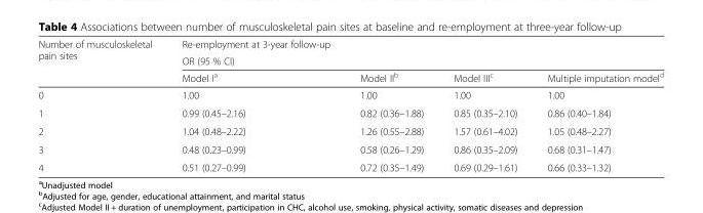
<table><thead><tr><td rowspan="3">Number of musculoskeletal pain sites</td><td>Re-employment at 3-year follow-up</td><td></td><td></td><td></td></tr><tr><td colspan="4">OR (95 % CI)</td></tr><tr><td>Model I<sup>a</sup></td><td>Model II<sup>b</sup></td><td>Model III<sup>c</sup></td><td>Multiple imputation model<sup>d</sup></td></tr></thead><tbody><tr><td>0</td><td>1.00</td><td>1.00</td><td>1.00</td><td>1.00</td></tr><tr><td>1</td><td>0.99 (0.45–2.16)</td><td>0.82 (0.36–1.88)</td><td>0.85 (0.35–2.10)</td><td>0.86 (0.40–1.84)</td></tr><tr><td>2</td><td>1.04 (0.48–2.22)</td><td>1.26 (0.55–2.88)</td><td>1.57 (0.61–4.02)</td><td>1.05 (0.48–2.27)</td></tr><tr><td>3</td><td>0.48 (0.23–0.99)</td><td>0.58 (0.26–1.29)</td><td>0.86 (0.35–2.09)</td><td>0.68 (0.31–1.47)</td></tr><tr><td>4</td><td>0.51 (0.27–0.99)</td><td>0.72 (0.35–1.49)</td><td>0.69 (0.29–1.61)</td><td>0.66 (0.33–1.32)</td></tr></tbody></table>